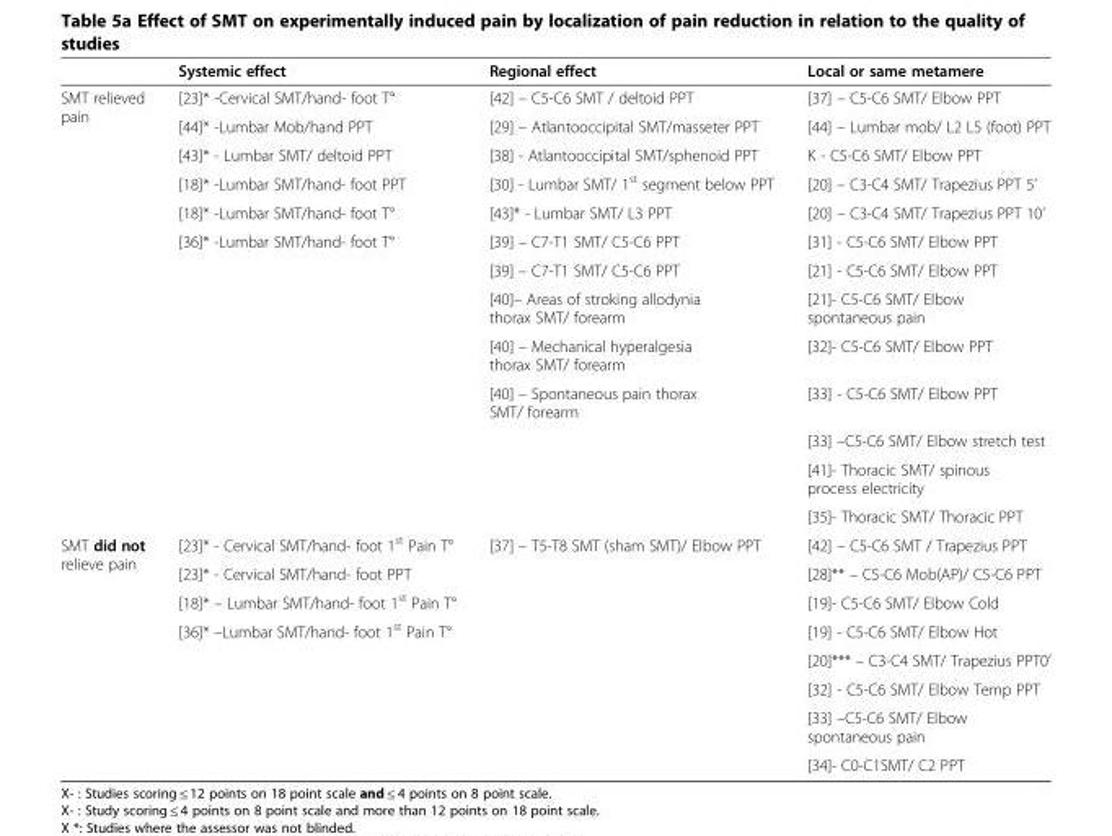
<table><thead><tr><td></td><td>Systemic effect</td><td>Regional effect</td><td>Local or same metamere</td></tr></thead><tbody><tr><td rowspan="13">SMT relieved pain</td><td>[23]* -Cervical SMT/hand- foot T°</td><td>[42] – C5-C6 SMT / deltoid PPT</td><td>[37] – C5-C6 SMT/ Elbow PPT</td></tr><tr><td>[44]* -Lumbar Mob/hand PPT</td><td>[29] – Atlantooccipital SMT/masseter PPT</td><td>[44] – Lumbar mob/ L2 L5 (foot) PPT</td></tr><tr><td>[43]* - Lumbar SMT/ deltoid PPT</td><td>[38] - Atlantooccipital SMT/sphenoid PPT</td><td>K - C5-C6 SMT/ Elbow PPT</td></tr><tr><td>[18]* -Lumbar SMT/hand- foot PPT</td><td>[30] - Lumbar SMT/ 1<sup>st</sup> segment below PPT</td><td>[20] – C3-C4 SMT/ Trapezius PPT 5’</td></tr><tr><td>[18]* -Lumbar SMT/hand- foot T°</td><td>[43]* - Lumbar SMT/ L3 PPT</td><td>[20] – C3-C4 SMT/ Trapezius PPT 10’</td></tr><tr><td>[36]* -Lumbar SMT/hand- foot T°</td><td>[39] – C7-T1 SMT/ C5-C6 PPT</td><td>[31] - C5-C6 SMT/ Elbow PPT</td></tr><tr><td></td><td>[39] – C7-T1 SMT/ C5-C6 PPT</td><td>[21] - C5-C6 SMT/ Elbow PPT</td></tr><tr><td></td><td>[40]– Areas of stroking allodynia thorax SMT/ forearm</td><td>[21]- C5-C6 SMT/ Elbow spontaneous pain</td></tr><tr><td></td><td>[40] – Mechanical hyperalgesia thorax SMT/ forearm</td><td>[32]- C5-C6 SMT/ Elbow PPT</td></tr><tr><td></td><td>[40] – Spontaneous pain thorax SMT/ forearm</td><td>[33] - C5-C6 SMT/ Elbow PPT</td></tr><tr><td></td><td></td><td>[33] –C5-C6 SMT/ Elbow stretch test</td></tr><tr><td></td><td></td><td>[41]- Thoracic SMT/ spinous process electricity</td></tr><tr><td></td><td></td><td>[35]- Thoracic SMT/ Thoracic PPT</td></tr><tr><td rowspan="8">SMT did not relieve pain</td><td>[23]* - Cervical SMT/hand- foot 1<sup>st</sup> Pain T°</td><td>[37] – T5-T8 SMT (sham SMT)/ Elbow PPT</td><td>[42] – C5-C6 SMT / Trapezius PPT</td></tr><tr><td>[23]* - Cervical SMT/hand- foot PPT</td><td></td><td>[28]** – C5-C6 Mob(AP)/ C5-C6 PPT</td></tr><tr><td>[18]* – Lumbar SMT/hand- foot 1<sup>st</sup> Pain T°</td><td></td><td>[19]- C5-C6 SMT/ Elbow Cold</td></tr><tr><td>[36]* –Lumbar SMT/hand- foot 1<sup>st</sup> Pain T°</td><td></td><td>[19] - C5-C6 SMT/ Elbow Hot</td></tr><tr><td></td><td></td><td>[20]*** – C3-C4 SMT/ Trapezius PPT0’</td></tr><tr><td></td><td></td><td>[32] - C5-C6 SMT/ Elbow Temp PPT</td></tr><tr><td></td><td></td><td>[33] –C5-C6 SMT/ Elbow spontaneous pain</td></tr><tr><td></td><td></td><td>[34]- C0-C1SMT/ C2 PPT</td></tr></tbody></table>